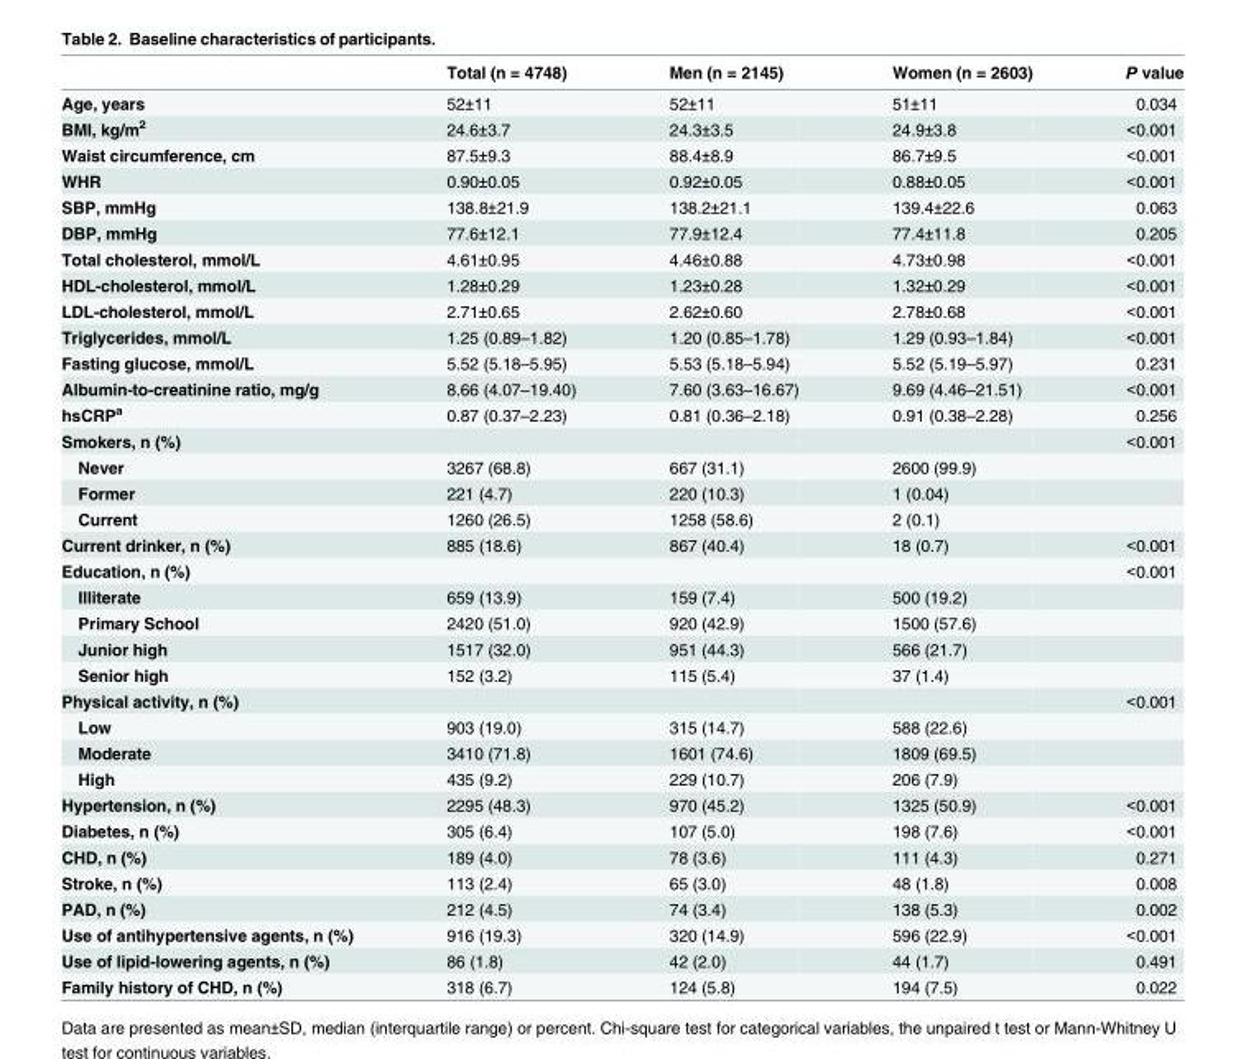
<table><thead><tr><td></td><td>Total (n = 4748)</td><td>Men (n = 2145)</td><td>Women (n = 2603)</td><td>P value</td></tr></thead><tbody><tr><td>Age, years</td><td>52±11</td><td>52±11</td><td>51±11</td><td>0.034</td></tr><tr><td>BMI, kg/m<sup>2</sup></td><td>24.6±3.7</td><td>24.3±3.5</td><td>24.9±3.8</td><td>&lt;0.001</td></tr><tr><td>Waist circumference, cm</td><td>87.5±9.3</td><td>88.4±8.9</td><td>86.7±9.5</td><td>&lt;0.001</td></tr><tr><td>WHR</td><td>0.90±0.05</td><td>0.92±0.05</td><td>0.88±0.05</td><td>&lt;0.001</td></tr><tr><td>SBP, mmHg</td><td>138.8±21.9</td><td>138.2±21.1</td><td>139.4±22.6</td><td>0.063</td></tr><tr><td>DBP, mmHg</td><td>77.6±12.1</td><td>77.9±12.4</td><td>77.4±11.8</td><td>0.205</td></tr><tr><td>Total cholesterol, mmol/L</td><td>4.61±0.95</td><td>4.46±0.88</td><td>4.73±0.98</td><td>&lt;0.001</td></tr><tr><td>HDL-cholesterol, mmol/L</td><td>1.28±0.29</td><td>1.23±0.28</td><td>1.32±0.29</td><td>&lt;0.001</td></tr><tr><td>LDL-cholesterol, mmol/L</td><td>2.71±0.65</td><td>2.62±0.60</td><td>2.78±0.68</td><td>&lt;0.001</td></tr><tr><td>Triglycerides, mmol/L</td><td>1.25 (0.89–1.82)</td><td>1.20 (0.85–1.78)</td><td>1.29 (0.93–1.84)</td><td>&lt;0.001</td></tr><tr><td>Fasting glucose, mmol/L</td><td>5.52 (5.18–5.95)</td><td>5.53 (5.18–5.94)</td><td>5.52 (5.19–5.97)</td><td>0.231</td></tr><tr><td>Albumin-to-creatinine ratio, mg/g</td><td>8.66 (4.07–19.40)</td><td>7.60 (3.63–16.67)</td><td>9.69 (4.46–21.51)</td><td>&lt;0.001</td></tr><tr><td>hsCRP<sup>a</sup></td><td>0.87 (0.37–2.23)</td><td>0.81 (0.36–2.18)</td><td>0.91 (0.38–2.28)</td><td>0.256</td></tr><tr><td>Smokers, n (%)</td><td></td><td></td><td></td><td>&lt;0.001</td></tr><tr><td>Never</td><td>3267 (68.8)</td><td>667 (31.1)</td><td>2600 (99.9)</td><td></td></tr><tr><td>Former</td><td>221 (4.7)</td><td>220 (10.3)</td><td>1 (0.04)</td><td></td></tr><tr><td>Current</td><td>1260 (26.5)</td><td>1258 (58.6)</td><td>2 (0.1)</td><td></td></tr><tr><td>Current drinker, n (%)</td><td>885 (18.6)</td><td>867 (40.4)</td><td>18 (0.7)</td><td>&lt;0.001</td></tr><tr><td>Education, n (%)</td><td></td><td></td><td></td><td>&lt;0.001</td></tr><tr><td>Illiterate</td><td>659 (13.9)</td><td>159 (7.4)</td><td>500 (19.2)</td><td></td></tr><tr><td>Primary School</td><td>2420 (51.0)</td><td>920 (42.9)</td><td>1500 (57.6)</td><td></td></tr><tr><td>Junior high</td><td>1517 (32.0)</td><td>951 (44.3)</td><td>566 (21.7)</td><td></td></tr><tr><td>Senior high</td><td>152 (3.2)</td><td>115 (5.4)</td><td>37 (1.4)</td><td></td></tr><tr><td>Physical activity, n (%)</td><td></td><td></td><td></td><td>&lt;0.001</td></tr><tr><td>Low</td><td>903 (19.0)</td><td>315 (14.7)</td><td>588 (22.6)</td><td></td></tr><tr><td>Moderate</td><td>3410 (71.8)</td><td>1601 (74.6)</td><td>1809 (69.5)</td><td></td></tr><tr><td>High</td><td>435 (9.2)</td><td>229 (10.7)</td><td>206 (7.9)</td><td></td></tr><tr><td>Hypertension, n (%)</td><td>2295 (48.3)</td><td>970 (45.2)</td><td>1325 (50.9)</td><td>&lt;0.001</td></tr><tr><td>Diabetes, n (%)</td><td>305 (6.4)</td><td>107 (5.0)</td><td>198 (7.6)</td><td>&lt;0.001</td></tr><tr><td>CHD, n (%)</td><td>189 (4.0)</td><td>78 (3.6)</td><td>111 (4.3)</td><td>0.271</td></tr><tr><td>Stroke, n (%)</td><td>113 (2.4)</td><td>65 (3.0)</td><td>48 (1.8)</td><td>0.008</td></tr><tr><td>PAD, n (%)</td><td>212 (4.5)</td><td>74 (3.4)</td><td>138 (5.3)</td><td>0.002</td></tr><tr><td>Use of antihypertensive agents, n (%)</td><td>916 (19.3)</td><td>320 (14.9)</td><td>596 (22.9)</td><td>&lt;0.001</td></tr><tr><td>Use of lipid-lowering agents, n (%)</td><td>86 (1.8)</td><td>42 (2.0)</td><td>44 (1.7)</td><td>0.491</td></tr><tr><td>Family history of CHD, n (%)</td><td>318 (6.7)</td><td>124 (5.8)</td><td>194 (7.5)</td><td>0.022</td></tr></tbody></table>